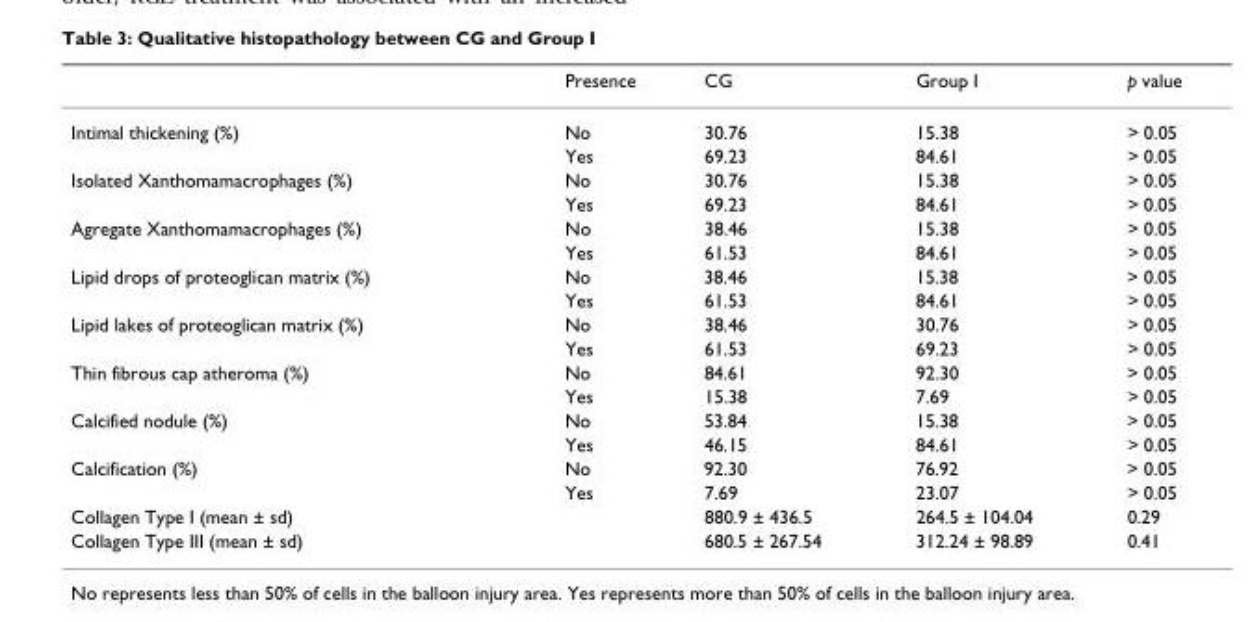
<table><thead><tr><td></td><td>Presence</td><td>CG</td><td>Group I</td><td>p value</td></tr></thead><tbody><tr><td rowspan="2">Intimal thickening (%)</td><td>No</td><td>30.76</td><td>15.38</td><td>&gt; 0.05</td></tr><tr><td>Yes</td><td>69.23</td><td>84.61</td><td>&gt; 0.05</td></tr><tr><td rowspan="2">Isolated Xanthomamacrophages (%)</td><td>No</td><td>30.76</td><td>15.38</td><td>&gt; 0.05</td></tr><tr><td>Yes</td><td>69.23</td><td>84.61</td><td>&gt; 0.05</td></tr><tr><td rowspan="2">Agregate Xanthomamacrophages (%)</td><td>No</td><td>38.46</td><td>15.38</td><td>&gt; 0.05</td></tr><tr><td>Yes</td><td>61.53</td><td>84.61</td><td>&gt; 0.05</td></tr><tr><td rowspan="2">Lipid drops of proteoglican matrix (%)</td><td>No</td><td>38.46</td><td>15.38</td><td>&gt; 0.05</td></tr><tr><td>Yes</td><td>61.53</td><td>84.61</td><td>&gt; 0.05</td></tr><tr><td rowspan="2">Lipid lakes of proteoglican matrix (%)</td><td>No</td><td>38.46</td><td>30.76</td><td>&gt; 0.05</td></tr><tr><td>Yes</td><td>61.53</td><td>69.23</td><td>&gt; 0.05</td></tr><tr><td rowspan="2">Thin fibrous cap atheroma (%)</td><td>No</td><td>84.61</td><td>92.30</td><td>&gt; 0.05</td></tr><tr><td>Yes</td><td>15.38</td><td>7.69</td><td>&gt; 0.05</td></tr><tr><td rowspan="2">Calcified nodule (%)</td><td>No</td><td>53.84</td><td>15.38</td><td>&gt; 0.05</td></tr><tr><td>Yes</td><td>46.15</td><td>84.61</td><td>&gt; 0.05</td></tr><tr><td rowspan="2">Calcification (%)</td><td>No</td><td>92.30</td><td>76.92</td><td>&gt; 0.05</td></tr><tr><td>Yes</td><td>7.69</td><td>23.07</td><td>&gt; 0.05</td></tr><tr><td>Collagen Type I (mean ± sd)</td><td></td><td>880.9 ± 436.5</td><td>264.5 ± 104.04</td><td>0.29</td></tr><tr><td>Collagen Type III (mean ± sd)</td><td></td><td>680.5 ± 267.54</td><td>312.24 ± 98.89</td><td>0.41</td></tr></tbody></table>